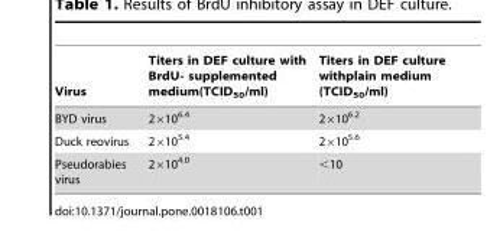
<table><thead><tr><td>Virus</td><td>Titers in DEF culture with BrdU- supplemented medium(TCID<sub>50</sub>/ml)</td><td>Titers in DEF culture withplain medium (TCID<sub>50</sub>/ml)</td></tr></thead><tbody><tr><td>BYD virus</td><td>2×10<sup>6.4</sup></td><td>2×10<sup>6.2</sup></td></tr><tr><td>Duck reovirus</td><td>2×10<sup>5.4</sup></td><td>2×10<sup>5.6</sup></td></tr><tr><td>Pseudorabies virus</td><td>2×10<sup>4.0</sup></td><td>&lt;10</td></tr></tbody></table>